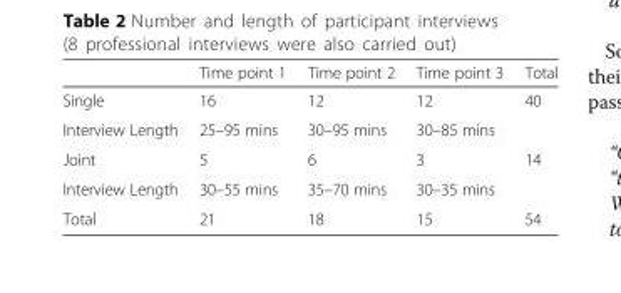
<table><thead><tr><td></td><td>Time point 1</td><td>Time point 2</td><td>Time point 3</td><td>Total</td></tr></thead><tbody><tr><td>Single</td><td>16</td><td>12</td><td>12</td><td>40</td></tr><tr><td>Interview Length</td><td>25–95 mins</td><td>30–95 mins</td><td>30–85 mins</td><td></td></tr><tr><td>Joint</td><td>5</td><td>6</td><td>3</td><td>14</td></tr><tr><td>Interview Length</td><td>30–55 mins</td><td>35–70 mins</td><td>30–35 mins</td><td></td></tr><tr><td>Total</td><td>21</td><td>18</td><td>15</td><td>54</td></tr></tbody></table>